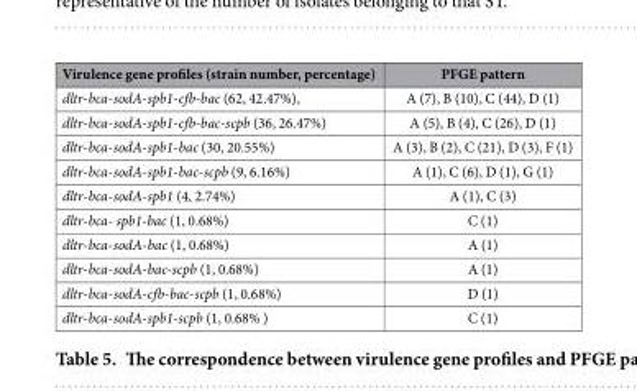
<table><thead><tr><td>Virulence gene profiles (strain number, percentage)</td><td>PFGE pattern</td></tr></thead><tbody><tr><td>dltr-bca-sodA-spb1-cfb-bac (62, 42.47%),</td><td>A (7), B (10), C (44), D (1)</td></tr><tr><td>dltr-bca-sodA-spb1-cfb-bac-scpb (36, 26.47%)</td><td>A (5), B (4), C (26), D (1)</td></tr><tr><td>dltr-bca-sodA-spb1-bac (30, 20.55%)</td><td>A (3), B (2), C (21), D (3), F (1)</td></tr><tr><td>dltr-bca-sodA-spb1-bac-scpb (9, 6.16%)</td><td>A (1), C (6), D (1), G (1)</td></tr><tr><td>dltr-bca-sodA-spb1 (4, 2.74%)</td><td>A (1), C (3)</td></tr><tr><td>dltr-bca- spb1-bac (1, 0.68%)</td><td>C (1)</td></tr><tr><td>dltr-bca-sodA-bac (1, 0.68%)</td><td>A (1)</td></tr><tr><td>dltr-bca-sodA-bac-scpb (1, 0.68%)</td><td>A (1)</td></tr><tr><td>dltr-bca-sodA-cfb-bac-scpb (1, 0.68%)</td><td>D (1)</td></tr><tr><td>dltr-bca-sodA-spb1-scpb (1, 0.68% )</td><td>C (1)</td></tr></tbody></table>